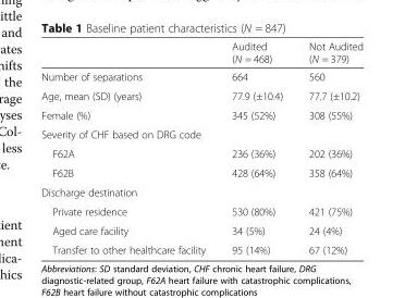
<table><thead><tr><td></td><td>Audited (N = 468)</td><td>Not Audited (N = 379)</td></tr></thead><tbody><tr><td>Number of separations</td><td>664</td><td>560</td></tr><tr><td>Age, mean (SD) (years)</td><td>77.9 (±10.4)</td><td>77.7 (±10.2)</td></tr><tr><td>Female (%)</td><td>345 (52%)</td><td>308 (55%)</td></tr><tr><td colspan="3">Severity of CHF based on DRG code</td></tr><tr><td>F62A</td><td>236 (36%)</td><td>202 (36%)</td></tr><tr><td>F62B</td><td>428 (64%)</td><td>358 (64%)</td></tr><tr><td colspan="3">Discharge destination</td></tr><tr><td>Private residence</td><td>530 (80%)</td><td>421 (75%)</td></tr><tr><td>Aged care facility</td><td>34 (5%)</td><td>24 (4%)</td></tr><tr><td>Transfer to other healthcare facility</td><td>95 (14%)</td><td>67 (12%)</td></tr></tbody></table>